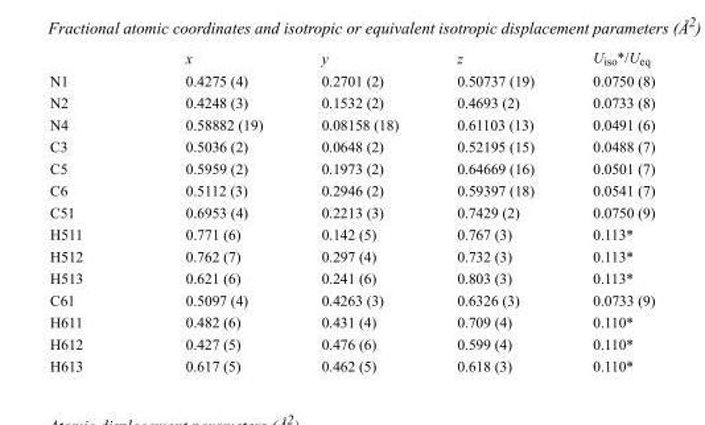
<table><thead><tr><td></td><td>x</td><td>y</td><td>z</td><td>U<sub>iso</sub>*/U<sub>eq</sub></td></tr></thead><tbody><tr><td>N1</td><td>0.4275 (4)</td><td>0.2701 (2)</td><td>0.50737 (19)</td><td>0.0750 (8)</td></tr><tr><td>N2</td><td>0.4248 (3)</td><td>0.1532 (2)</td><td>0.4693 (2)</td><td>0.0733 (8)</td></tr><tr><td>N4</td><td>0.58882 (19)</td><td>0.08158 (18)</td><td>0.61103 (13)</td><td>0.0491 (6)</td></tr><tr><td>C3</td><td>0.5036 (2)</td><td>0.0648 (2)</td><td>0.52195 (15)</td><td>0.0488 (7)</td></tr><tr><td>C5</td><td>0.5959 (2)</td><td>0.1973 (2)</td><td>0.64669 (16)</td><td>0.0501 (7)</td></tr><tr><td>C6</td><td>0.5112 (3)</td><td>0.2946 (2)</td><td>0.59397 (18)</td><td>0.0541 (7)</td></tr><tr><td>C51</td><td>0.6953 (4)</td><td>0.2213 (3)</td><td>0.7429 (2)</td><td>0.0750 (9)</td></tr><tr><td>H511</td><td>0.771 (6)</td><td>0.142 (5)</td><td>0.767 (3)</td><td>0.113*</td></tr><tr><td>H512</td><td>0.762 (7)</td><td>0.297 (4)</td><td>0.732 (3)</td><td>0.113*</td></tr><tr><td>H513</td><td>0.621 (6)</td><td>0.241 (6)</td><td>0.803 (3)</td><td>0.113*</td></tr><tr><td>C61</td><td>0.5097 (4)</td><td>0.4263 (3)</td><td>0.6326 (3)</td><td>0.0733 (9)</td></tr><tr><td>H611</td><td>0.482 (6)</td><td>0.431 (4)</td><td>0.709 (4)</td><td>0.110*</td></tr><tr><td>H612</td><td>0.427 (5)</td><td>0.476 (6)</td><td>0.599 (4)</td><td>0.110*</td></tr><tr><td>H613</td><td>0.617 (5)</td><td>0.462 (5)</td><td>0.618 (3)</td><td>0.110*</td></tr></tbody></table>